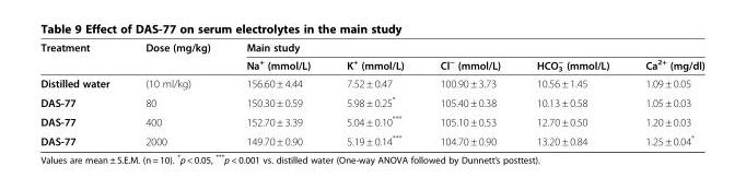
<table><thead><tr><td rowspan="2">Treatment</td><td rowspan="2">Dose (mg/kg)</td><td colspan="5">Main study</td></tr><tr><td>Na<sup>+</sup> (mmol/L)</td><td>K<sup>+</sup> (mmol/L)</td><td>Cl<sup>−</sup> (mmol/L)</td><td>HCO<sub>3</sub> <sup>−</sup> (mmol/L)</td><td>Ca<sup>2+</sup> (mg/dl)</td></tr></thead><tbody><tr><td>Distilled water</td><td>(10 ml/kg)</td><td>156.60 ± 4.44</td><td>7.52 ± 0.47</td><td>100.90 ± 3.73</td><td>10.56 ± 1.45</td><td>1.09 ± 0.05</td></tr><tr><td>DAS-77</td><td>80</td><td>150.30 ± 0.59</td><td>5.98 ± 0.25*</td><td>105.40 ± 0.38</td><td>10.13 ± 0.58</td><td>1.05 ± 0.03</td></tr><tr><td>DAS-77</td><td>400</td><td>152.70 ± 3.39</td><td>5.04 ± 0.10***</td><td>105.10 ± 0.53</td><td>12.70 ± 0.50</td><td>1.20 ± 0.03</td></tr><tr><td>DAS-77</td><td>2000</td><td>149.70 ± 0.90</td><td>5.19 ± 0.14***</td><td>104.70 ± 0.90</td><td>13.20 ± 0.84</td><td>1.25 ± 0.04*</td></tr></tbody></table>